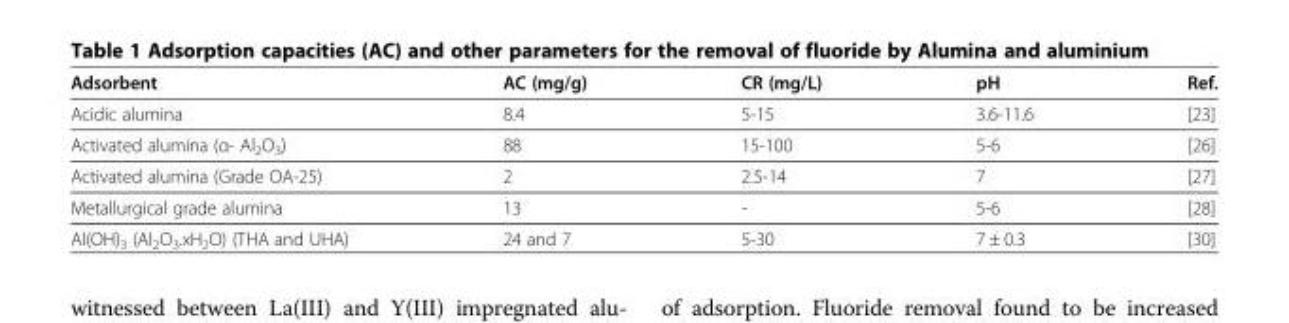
<table><thead><tr><td>Adsorbent</td><td>AC (mg/g)</td><td>CR (mg/L)</td><td>pH</td><td>Ref.</td></tr></thead><tbody><tr><td>Acidic alumina</td><td>8.4</td><td>5-15</td><td>3.6-11.6</td><td>[23]</td></tr><tr><td>Activated alumina (α- Al<sub>2</sub>O<sub>3</sub>)</td><td>88</td><td>15-100</td><td>5-6</td><td>[26]</td></tr><tr><td>Activated alumina (Grade OA-25)</td><td>2</td><td>2.5-14</td><td>7</td><td>[27]</td></tr><tr><td>Metallurgical grade alumina</td><td>13</td><td>-</td><td>5-6</td><td>[28]</td></tr><tr><td>Al(OH)<sub>3</sub> (Al<sub>2</sub>O<sub>3</sub>.xH<sub>2</sub>O) (THA and UHA)</td><td>24 and 7</td><td>5-30</td><td>7 ± 0.3</td><td>[30]</td></tr></tbody></table>